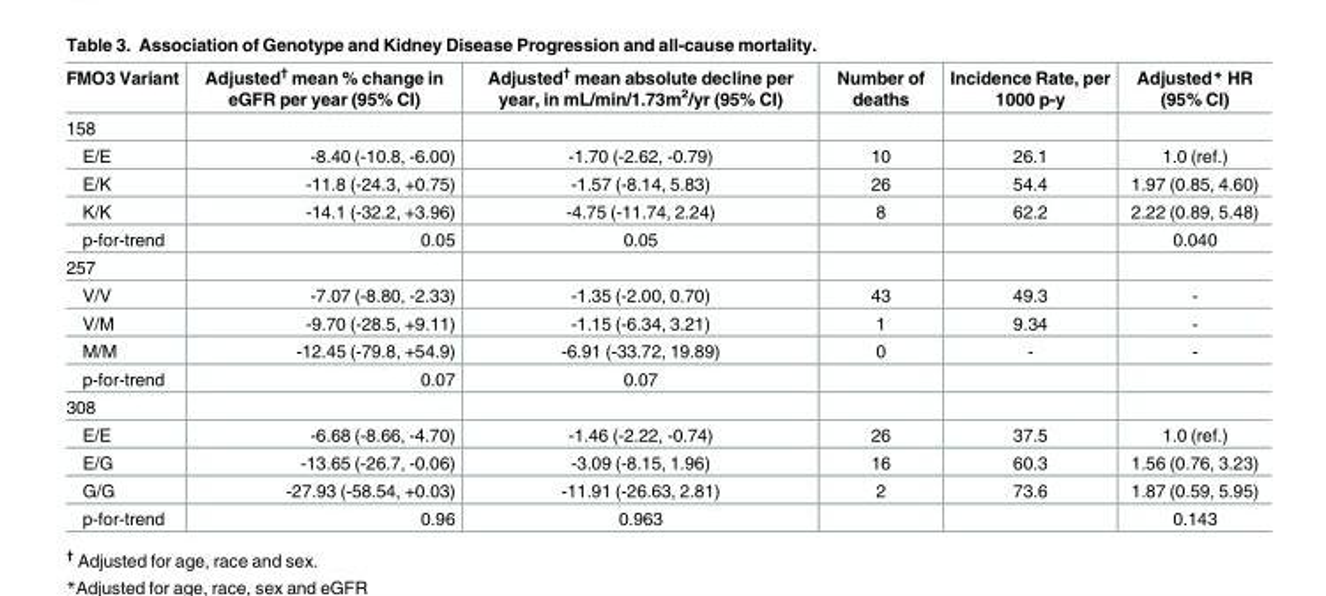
<table><thead><tr><td>FMO3 Variant</td><td>Adjusted<sup>†</sup> mean % change in eGFR per year (95% CI)</td><td>Adjusted<sup>†</sup> mean absolute decline per year, in mL/min/1.73m<sup>2</sup>/yr (95% CI)</td><td>Number of deaths</td><td>Incidence Rate, per 1000 p-y</td><td>Adjusted* HR (95% CI)</td></tr></thead><tbody><tr><td colspan="6">158</td></tr><tr><td>E/E</td><td>-8.40 (-10.8, -6.00)</td><td>-1.70 (-2.62, -0.79)</td><td>10</td><td>26.1</td><td>1.0 (ref.)</td></tr><tr><td>E/K</td><td>-11.8 (-24.3, +0.75)</td><td>-1.57 (-8.14, 5.83)</td><td>26</td><td>54.4</td><td>1.97 (0.85, 4.60)</td></tr><tr><td>K/K</td><td>-14.1 (-32.2, +3.96)</td><td>-4.75 (-11.74, 2.24)</td><td>8</td><td>62.2</td><td>2.22 (0.89, 5.48)</td></tr><tr><td>p-for-trend</td><td>0.05</td><td>0.05</td><td></td><td></td><td>0.040</td></tr><tr><td colspan="6">257</td></tr><tr><td>V/V</td><td>-7.07 (-8.80, -2.33)</td><td>-1.35 (-2.00, 0.70)</td><td>43</td><td>49.3</td><td>-</td></tr><tr><td>V/M</td><td>-9.70 (-28.5, +9.11)</td><td>-1.15 (-6.34, 3.21)</td><td>1</td><td>9.34</td><td>-</td></tr><tr><td>M/M</td><td>-12.45 (-79.8, +54.9)</td><td>-6.91 (-33.72, 19.89)</td><td>0</td><td>-</td><td>-</td></tr><tr><td>p-for-trend</td><td>0.07</td><td>0.07</td><td></td><td></td><td></td></tr><tr><td colspan="6">308</td></tr><tr><td>E/E</td><td>-6.68 (-8.66, -4.70)</td><td>-1.46 (-2.22, -0.74)</td><td>26</td><td>37.5</td><td>1.0 (ref.)</td></tr><tr><td>E/G</td><td>-13.65 (-26.7, -0.06)</td><td>-3.09 (-8.15, 1.96)</td><td>16</td><td>60.3</td><td>1.56 (0.76, 3.23)</td></tr><tr><td>G/G</td><td>-27.93 (-58.54, +0.03)</td><td>-11.91 (-26.63, 2.81)</td><td>2</td><td>73.6</td><td>1.87 (0.59, 5.95)</td></tr><tr><td>p-for-trend</td><td>0.96</td><td>0.963</td><td></td><td></td><td>0.143</td></tr></tbody></table>